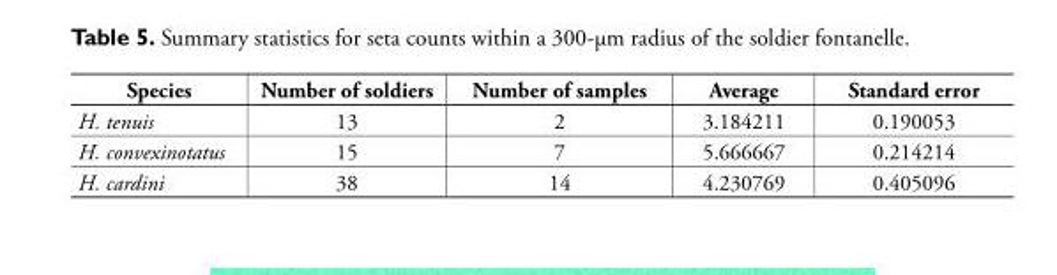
<table><thead><tr><td>Species</td><td>Number of soldiers</td><td>Number of samples</td><td>Average</td><td>Standard error</td></tr></thead><tbody><tr><td>H. tenuis</td><td>13</td><td>2</td><td>3.184211</td><td>0.190053</td></tr><tr><td>H. convexinotatus</td><td>15</td><td>7</td><td>5.666667</td><td>0.214214</td></tr><tr><td>H. cardini</td><td>38</td><td>14</td><td>4.230769</td><td>0.405096</td></tr></tbody></table>